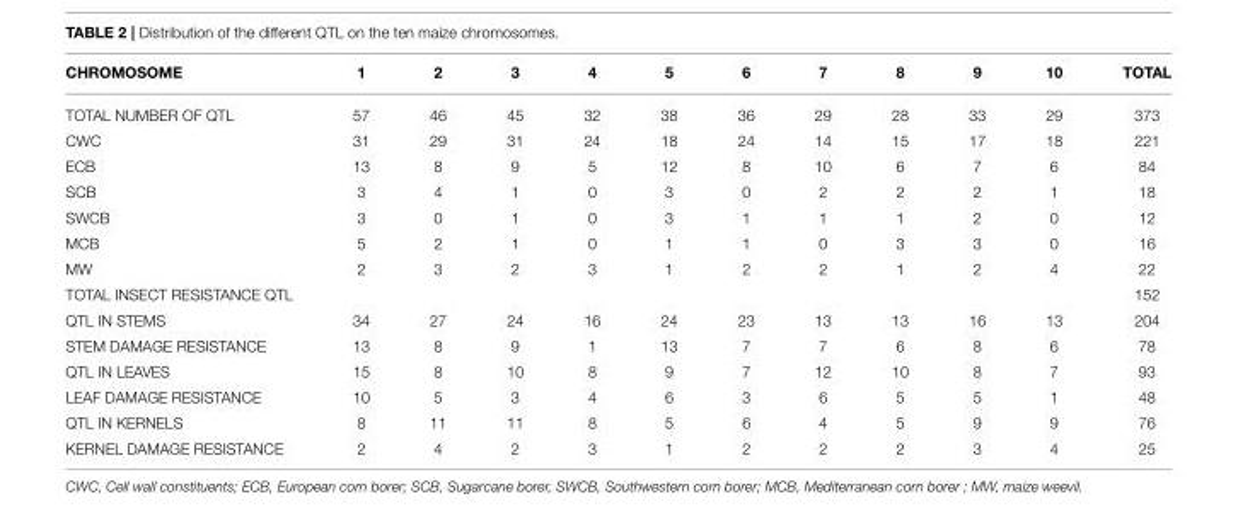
<table><thead><tr><td>CHROMOSOME</td><td>1</td><td>2</td><td>3</td><td>4</td><td>5</td><td>6</td><td>7</td><td>8</td><td>9</td><td>10</td><td>TOTAL</td></tr></thead><tbody><tr><td>TOTAL NUMBER OF QTL</td><td>57</td><td>46</td><td>45</td><td>32</td><td>38</td><td>36</td><td>29</td><td>28</td><td>33</td><td>29</td><td>373</td></tr><tr><td>CWC</td><td>31</td><td>29</td><td>31</td><td>24</td><td>18</td><td>24</td><td>14</td><td>15</td><td>17</td><td>18</td><td>221</td></tr><tr><td>ECB</td><td>13</td><td>8</td><td>9</td><td>5</td><td>12</td><td>8</td><td>10</td><td>6</td><td>7</td><td>6</td><td>84</td></tr><tr><td>SCB</td><td>3</td><td>4</td><td>1</td><td>0</td><td>3</td><td>0</td><td>2</td><td>2</td><td>2</td><td>1</td><td>18</td></tr><tr><td>SWCB</td><td>3</td><td>0</td><td>1</td><td>0</td><td>3</td><td>1</td><td>1</td><td>1</td><td>2</td><td>0</td><td>12</td></tr><tr><td>MCB</td><td>5</td><td>2</td><td>1</td><td>0</td><td>1</td><td>1</td><td>0</td><td>3</td><td>3</td><td>0</td><td>16</td></tr><tr><td>MW</td><td>2</td><td>3</td><td>2</td><td>3</td><td>1</td><td>2</td><td>2</td><td>1</td><td>2</td><td>4</td><td>22</td></tr><tr><td>TOTAL INSECT RESISTANCE QTL</td><td></td><td></td><td></td><td></td><td></td><td></td><td></td><td></td><td></td><td></td><td>152</td></tr><tr><td>QTL IN STEMS</td><td>34</td><td>27</td><td>24</td><td>16</td><td>24</td><td>23</td><td>13</td><td>13</td><td>16</td><td>13</td><td>204</td></tr><tr><td>STEM DAMAGE RESISTANCE</td><td>13</td><td>8</td><td>9</td><td>1</td><td>13</td><td>7</td><td>7</td><td>6</td><td>8</td><td>6</td><td>78</td></tr><tr><td>QTL IN LEAVES</td><td>15</td><td>8</td><td>10</td><td>8</td><td>9</td><td>7</td><td>12</td><td>10</td><td>8</td><td>7</td><td>93</td></tr><tr><td>LEAF DAMAGE RESISTANCE</td><td>10</td><td>5</td><td>3</td><td>4</td><td>6</td><td>3</td><td>6</td><td>5</td><td>5</td><td>1</td><td>48</td></tr><tr><td>QTL IN KERNELS</td><td>8</td><td>11</td><td>11</td><td>8</td><td>5</td><td>6</td><td>4</td><td>5</td><td>9</td><td>9</td><td>76</td></tr><tr><td>KERNEL DAMAGE RESISTANCE</td><td>2</td><td>4</td><td>2</td><td>3</td><td>1</td><td>2</td><td>2</td><td>2</td><td>3</td><td>4</td><td>25</td></tr></tbody></table>